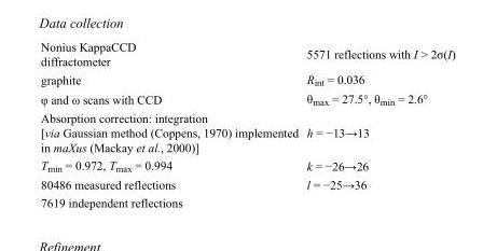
<table><tbody><tr><td>Nonius KappaCCD diffractometer</td><td>5571 reflections with I &gt; 2σ(I)</td></tr><tr><td>graphite</td><td>R<sub>int</sub> = 0.036</td></tr><tr><td>φ and ω scans with CCD</td><td>θ<sub>max</sub> = 27.5°, θ<sub>min</sub> = 2.6°</td></tr><tr><td>Absorption correction: integration [via Gaussian method (Coppens, 1970) implemented in maXus (Mackay et al., 2000)]</td><td>h = −13→13</td></tr><tr><td>T<sub>min</sub> = 0.972, T<sub>max</sub> = 0.994</td><td>k = −26→26</td></tr><tr><td>80486 measured reflections</td><td>l = −25→36</td></tr><tr><td>7619 independent reflections</td><td></td></tr></tbody></table>